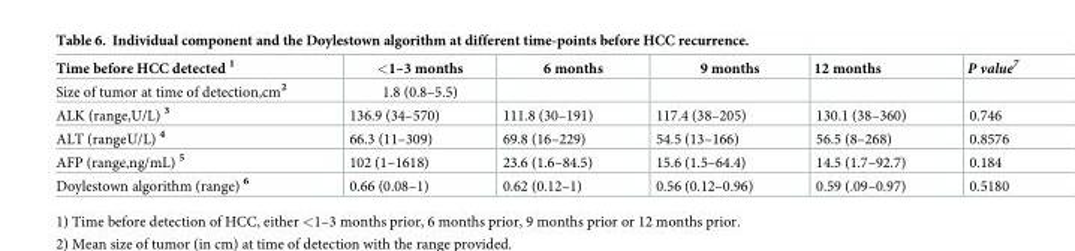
<table><thead><tr><td>Time before HCC detected <sup>1</sup></td><td>&lt;1–3 months</td><td>6 months</td><td>9 months</td><td>12 months</td><td>P value<sup>7</sup></td></tr></thead><tbody><tr><td>Size of tumor at time of detection,cm<sup>2</sup></td><td>1.8 (0.8–5.5)</td><td></td><td></td><td></td><td></td></tr><tr><td>ALK (range,U/L) <sup>3</sup></td><td>136.9 (34–570)</td><td>111.8 (30–191)</td><td>117.4 (38–205)</td><td>130.1 (38–360)</td><td>0.746</td></tr><tr><td>ALT (rangeU/L) <sup>4</sup></td><td>66.3 (11–309)</td><td>69.8 (16–229)</td><td>54.5 (13–166)</td><td>56.5 (8–268)</td><td>0.8576</td></tr><tr><td>AFP (range,ng/mL) <sup>5</sup></td><td>102 (1–1618)</td><td>23.6 (1.6–84.5)</td><td>15.6 (1.5–64.4)</td><td>14.5 (1.7–92.7)</td><td>0.184</td></tr><tr><td>Doylestown algorithm (range) <sup>6</sup></td><td>0.66 (0.08–1)</td><td>0.62 (0.12–1)</td><td>0.56 (0.12–0.96)</td><td>0.59 (.09–0.97)</td><td>0.5180</td></tr></tbody></table>